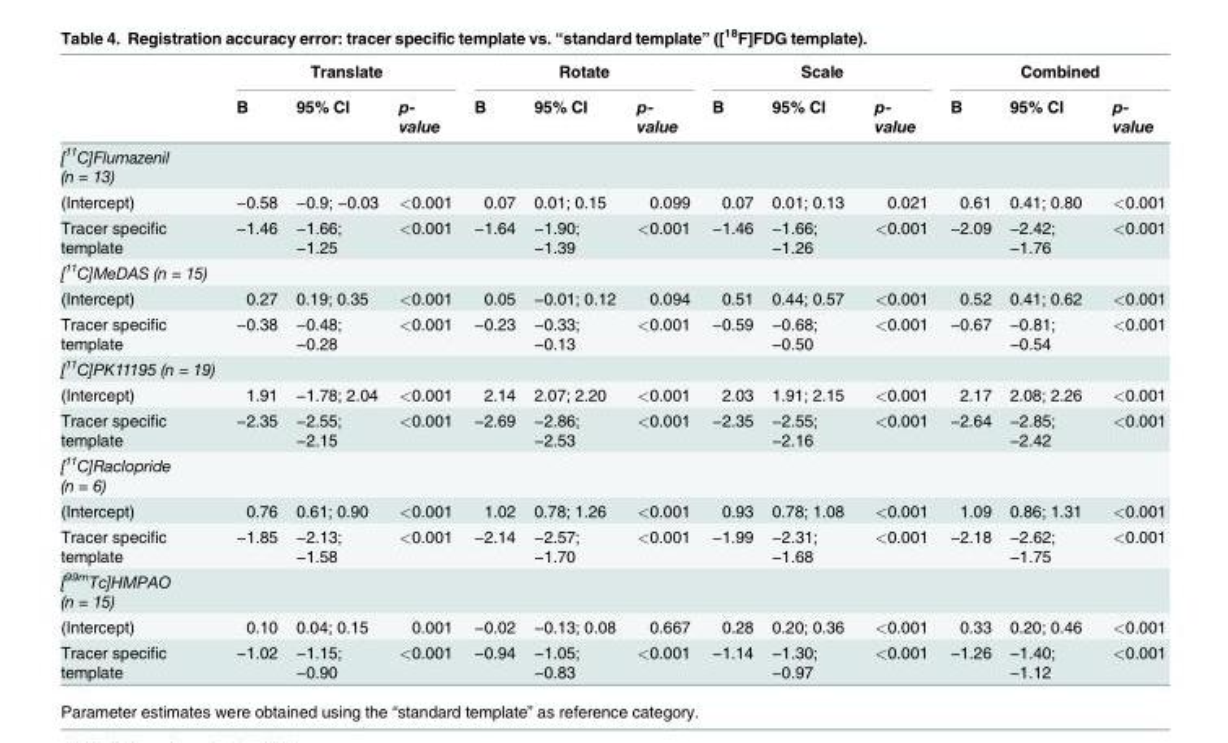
<table><thead><tr><td rowspan="2"></td><td colspan="3">Translate</td><td colspan="3">Rotate</td><td colspan="3">Scale</td><td colspan="3">Combined</td></tr><tr><td>B</td><td>95% CI</td><td>p- value</td><td>B</td><td>95% CI</td><td>p- value</td><td>B</td><td>95% CI</td><td>p- value</td><td>B</td><td>95% CI</td><td>p- value</td></tr></thead><tbody><tr><td colspan="13">[<sup>11</sup>C]Flumazenil (n = 13)</td></tr><tr><td>(Intercept)</td><td>−0.58</td><td>−0.9; −0.03</td><td>&lt;0.001</td><td>0.07</td><td>0.01; 0.15</td><td>0.099</td><td>0.07</td><td>0.01; 0.13</td><td>0.021</td><td>0.61</td><td>0.41; 0.80</td><td>&lt;0.001</td></tr><tr><td>Tracer specific template</td><td>−1.46</td><td>−1.66; −1.25</td><td>&lt;0.001</td><td>−1.64</td><td>−1.90; −1.39</td><td>&lt;0.001</td><td>−1.46</td><td>−1.66; −1.26</td><td>&lt;0.001</td><td>−2.09</td><td>−2.42; −1.76</td><td>&lt;0.001</td></tr><tr><td colspan="13">[<sup>11</sup>C]MeDAS (n = 15)</td></tr><tr><td>(Intercept)</td><td>0.27</td><td>0.19; 0.35</td><td>&lt;0.001</td><td>0.05</td><td>−0.01; 0.12</td><td>0.094</td><td>0.51</td><td>0.44; 0.57</td><td>&lt;0.001</td><td>0.52</td><td>0.41; 0.62</td><td>&lt;0.001</td></tr><tr><td>Tracer specific template</td><td>−0.38</td><td>−0.48; −0.28</td><td>&lt;0.001</td><td>−0.23</td><td>−0.33; −0.13</td><td>&lt;0.001</td><td>−0.59</td><td>−0.68; −0.50</td><td>&lt;0.001</td><td>−0.67</td><td>−0.81; −0.54</td><td>&lt;0.001</td></tr><tr><td colspan="13">[<sup>11</sup>C]PK11195 (n = 19)</td></tr><tr><td>(Intercept)</td><td>1.91</td><td>−1.78; 2.04</td><td>&lt;0.001</td><td>2.14</td><td>2.07; 2.20</td><td>&lt;0.001</td><td>2.03</td><td>1.91; 2.15</td><td>&lt;0.001</td><td>2.17</td><td>2.08; 2.26</td><td>&lt;0.001</td></tr><tr><td>Tracer specific template</td><td>−2.35</td><td>−2.55; −2.15</td><td>&lt;0.001</td><td>−2.69</td><td>−2.86; −2.53</td><td>&lt;0.001</td><td>−2.35</td><td>−2.55; −2.16</td><td>&lt;0.001</td><td>−2.64</td><td>−2.85; −2.42</td><td>&lt;0.001</td></tr><tr><td colspan="13">[<sup>11</sup>C]Raclopride (n = 6)</td></tr><tr><td>(Intercept)</td><td>0.76</td><td>0.61; 0.90</td><td>&lt;0.001</td><td>1.02</td><td>0.78; 1.26</td><td>&lt;0.001</td><td>0.93</td><td>0.78; 1.08</td><td>&lt;0.001</td><td>1.09</td><td>0.86; 1.31</td><td>&lt;0.001</td></tr><tr><td>Tracer specific template</td><td>−1.85</td><td>−2.13; −1.58</td><td>&lt;0.001</td><td>−2.14</td><td>−2.57; −1.70</td><td>&lt;0.001</td><td>−1.99</td><td>−2.31; −1.68</td><td>&lt;0.001</td><td>−2.18</td><td>−2.62; −1.75</td><td>&lt;0.001</td></tr><tr><td colspan="13">[<sup>99m</sup>Tc]HMPAO (n = 15)</td></tr><tr><td>(Intercept)</td><td>0.10</td><td>0.04; 0.15</td><td>0.001</td><td>−0.02</td><td>−0.13; 0.08</td><td>0.667</td><td>0.28</td><td>0.20; 0.36</td><td>&lt;0.001</td><td>0.33</td><td>0.20; 0.46</td><td>&lt;0.001</td></tr><tr><td>Tracer specific template</td><td>−1.02</td><td>−1.15; −0.90</td><td>&lt;0.001</td><td>−0.94</td><td>−1.05; −0.83</td><td>&lt;0.001</td><td>−1.14</td><td>−1.30; −0.97</td><td>&lt;0.001</td><td>−1.26</td><td>−1.40; −1.12</td><td>&lt;0.001</td></tr></tbody></table>